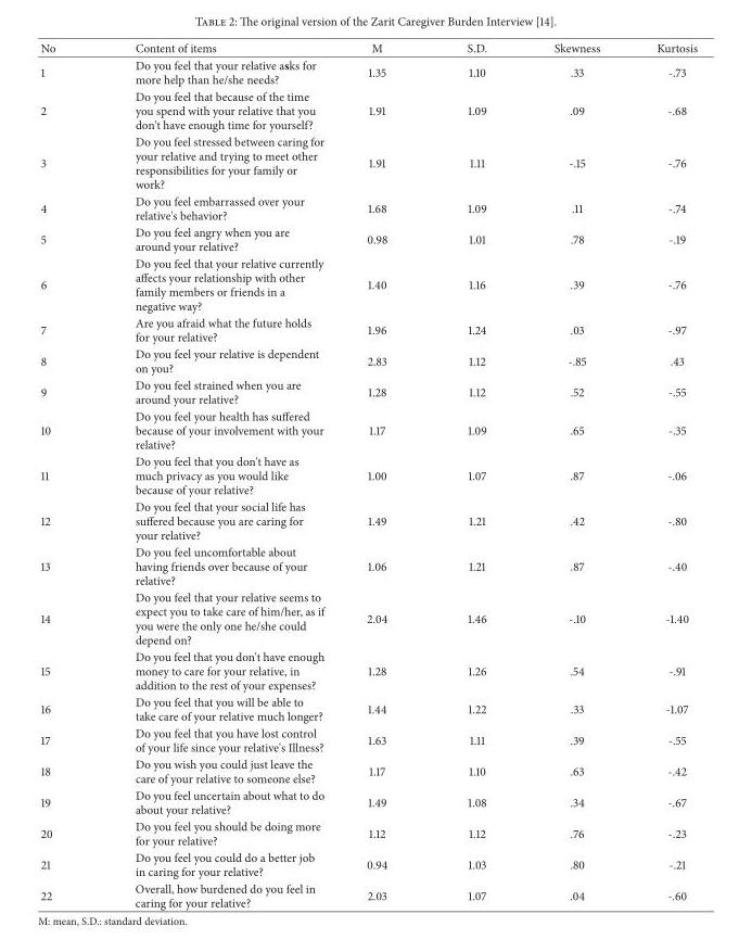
<table><thead><tr><td>No</td><td>Content of items</td><td>M</td><td>S.D.</td><td>Skewness</td><td>Kurtosis</td></tr></thead><tbody><tr><td>1</td><td>Do you feel that your relative asks for more help than he/she needs?</td><td>1.35</td><td>1.10</td><td>.33</td><td>-.73</td></tr><tr><td>2</td><td>Do you feel that because of the time you spend with your relative that you don&#x27;t have enough time for yourself?</td><td>1.91</td><td>1.09</td><td>.09</td><td>-.68</td></tr><tr><td>3</td><td>Do you feel stressed between caring for your relative and trying to meet other responsibilities for your family or work?</td><td>1.91</td><td>1.11</td><td>-.15</td><td>-.76</td></tr><tr><td>4</td><td>Do you feel embarrassed over your relative&#x27;s behavior?</td><td>1.68</td><td>1.09</td><td>.11</td><td>-.74</td></tr><tr><td>5</td><td>Do you feel angry when you are around your relative?</td><td>0.98</td><td>1.01</td><td>.78</td><td>-.19</td></tr><tr><td>6</td><td>Do you feel that your relative currently affects your relationship with other family members or friends in a negative way?</td><td>1.40</td><td>1.16</td><td>.39</td><td>-.76</td></tr><tr><td>7</td><td>Are you afraid what the future holds for your relative?</td><td>1.96</td><td>1.24</td><td>.03</td><td>-.97</td></tr><tr><td>8</td><td>Do you feel your relative is dependent on you?</td><td>2.83</td><td>1.12</td><td>-.85</td><td>.43</td></tr><tr><td>9</td><td>Do you feel strained when you are around your relative?</td><td>1.28</td><td>1.12</td><td>.52</td><td>-.55</td></tr><tr><td>10</td><td>Do you feel your health has suffered because of your involvement with your relative?</td><td>1.17</td><td>1.09</td><td>.65</td><td>-.35</td></tr><tr><td>11</td><td>Do you feel that you don&#x27;t have as much privacy as you would like because of your relative?</td><td>1.00</td><td>1.07</td><td>.87</td><td>-.06</td></tr><tr><td>12</td><td>Do you feel that your social life has suffered because you are caring for your relative?</td><td>1.49</td><td>1.21</td><td>.42</td><td>-.80</td></tr><tr><td>13</td><td>Do you feel uncomfortable about having friends over because of your relative?</td><td>1.06</td><td>1.21</td><td>.87</td><td>-.40</td></tr><tr><td>14</td><td>Do you feel that your relative seems to expect you to take care of him/her, as if you were the only one he/she could depend on?</td><td>2.04</td><td>1.46</td><td>-.10</td><td>-1.40</td></tr><tr><td>15</td><td>Do you feel that you don&#x27;t have enough money to care for your relative, in addition to the rest of your expenses?</td><td>1.28</td><td>1.26</td><td>.54</td><td>-.91</td></tr><tr><td>16</td><td>Do you feel that you will be able to take care of your relative much longer?</td><td>1.44</td><td>1.22</td><td>.33</td><td>-1.07</td></tr><tr><td>17</td><td>Do you feel that you have lost control of your life since your relative&#x27;s Illness?</td><td>1.63</td><td>1.11</td><td>.39</td><td>-.55</td></tr><tr><td>18</td><td>Do you wish you could just leave the care of your relative to someone else?</td><td>1.17</td><td>1.10</td><td>.63</td><td>-.42</td></tr><tr><td>19</td><td>Do you feel uncertain about what to do about your relative?</td><td>1.49</td><td>1.08</td><td>.34</td><td>-.67</td></tr><tr><td>20</td><td>Do you feel you should be doing more for your relative?</td><td>1.12</td><td>1.12</td><td>.76</td><td>-.23</td></tr><tr><td>21</td><td>Do you feel you could do a better job in caring for your relative?</td><td>0.94</td><td>1.03</td><td>.80</td><td>-.21</td></tr><tr><td>22</td><td>Overall, how burdened do you feel in caring for your relative?</td><td>2.03</td><td>1.07</td><td>.04</td><td>-.60</td></tr></tbody></table>